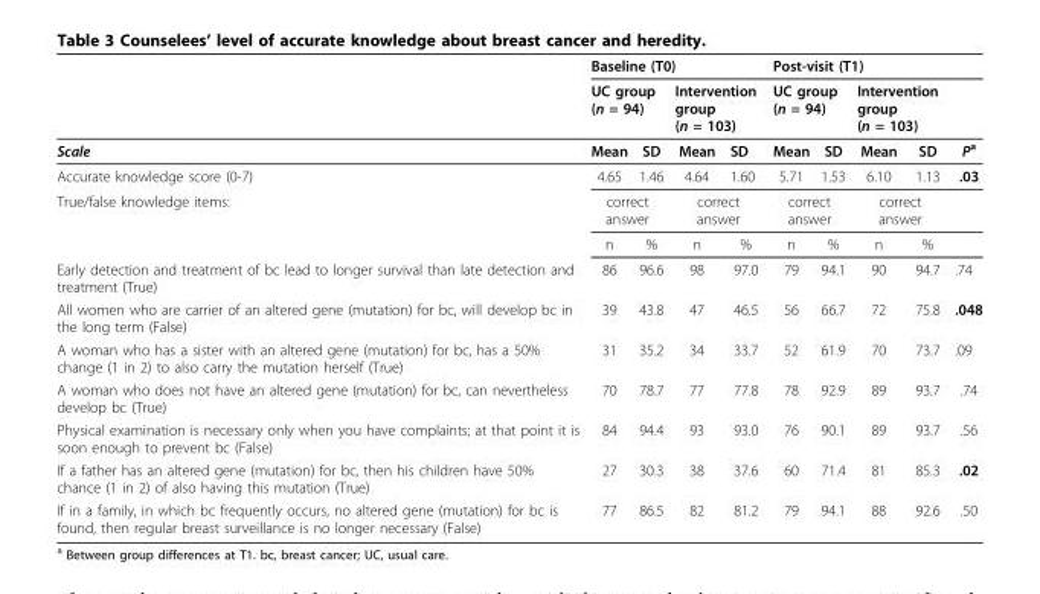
<table><thead><tr><td rowspan="3">Scale</td><td colspan="4">Baseline (T0)</td><td colspan="4">Post-visit (T1)</td><td rowspan="3">Pa</td></tr><tr><td colspan="2">UC group (n = 94)</td><td colspan="2">Intervention group (n = 103)</td><td colspan="2">UC group (n = 94)</td><td colspan="2">Intervention group (n = 103)</td></tr><tr><td>Mean</td><td>SD</td><td>Mean</td><td>SD</td><td>Mean</td><td>SD</td><td>Mean</td><td>SD</td></tr></thead><tbody><tr><td>Accurate knowledge score (0-7)</td><td>4.65</td><td>1.46</td><td>4.64</td><td>1.60</td><td>5.71</td><td>1.53</td><td>6.10</td><td>1.13</td><td>.03</td></tr><tr><td rowspan="2">True/false knowledge items:</td><td colspan="2">correct answer</td><td colspan="2">correct answer</td><td colspan="2">correct answer</td><td colspan="2">correct answer</td><td></td></tr><tr><td>n</td><td>%</td><td>n</td><td>%</td><td>n</td><td>%</td><td>n</td><td>%</td><td></td></tr><tr><td>Early detection and treatment of bc lead to longer survival than late detection and treatment (True)</td><td>86</td><td>96.6</td><td>98</td><td>97.0</td><td>79</td><td>94.1</td><td>90</td><td>94.7</td><td>.74</td></tr><tr><td>All women who are carrier of an altered gene (mutation) for bc, will develop bc in the long term (False)</td><td>39</td><td>43.8</td><td>47</td><td>46.5</td><td>56</td><td>66.7</td><td>72</td><td>75.8</td><td>.048</td></tr><tr><td>A woman who has a sister with an altered gene (mutation) for bc, has a 50% change (1 in 2) to also carry the mutation herself (True)</td><td>31</td><td>35.2</td><td>34</td><td>33.7</td><td>52</td><td>61.9</td><td>70</td><td>73.7</td><td>.09</td></tr><tr><td>A woman who does not have an altered gene (mutation) for bc, can nevertheless develop bc (True)</td><td>70</td><td>78.7</td><td>77</td><td>77.8</td><td>78</td><td>92.9</td><td>89</td><td>93.7</td><td>.74</td></tr><tr><td>Physical examination is necessary only when you have complaints; at that point it is soon enough to prevent bc (False)</td><td>84</td><td>94.4</td><td>93</td><td>93.0</td><td>76</td><td>90.1</td><td>89</td><td>93.7</td><td>.56</td></tr><tr><td>If a father has an altered gene (mutation) for bc, then his children have 50% chance (1 in 2) of also having this mutation (True)</td><td>27</td><td>30.3</td><td>38</td><td>37.6</td><td>60</td><td>71.4</td><td>81</td><td>85.3</td><td>.02</td></tr><tr><td>If in a family, in which bc frequently occurs, no altered gene (mutation) for bc is found, then regular breast surveillance is no longer necessary (False)</td><td>77</td><td>86.5</td><td>82</td><td>81.2</td><td>79</td><td>94.1</td><td>88</td><td>92.6</td><td>.50</td></tr></tbody></table>